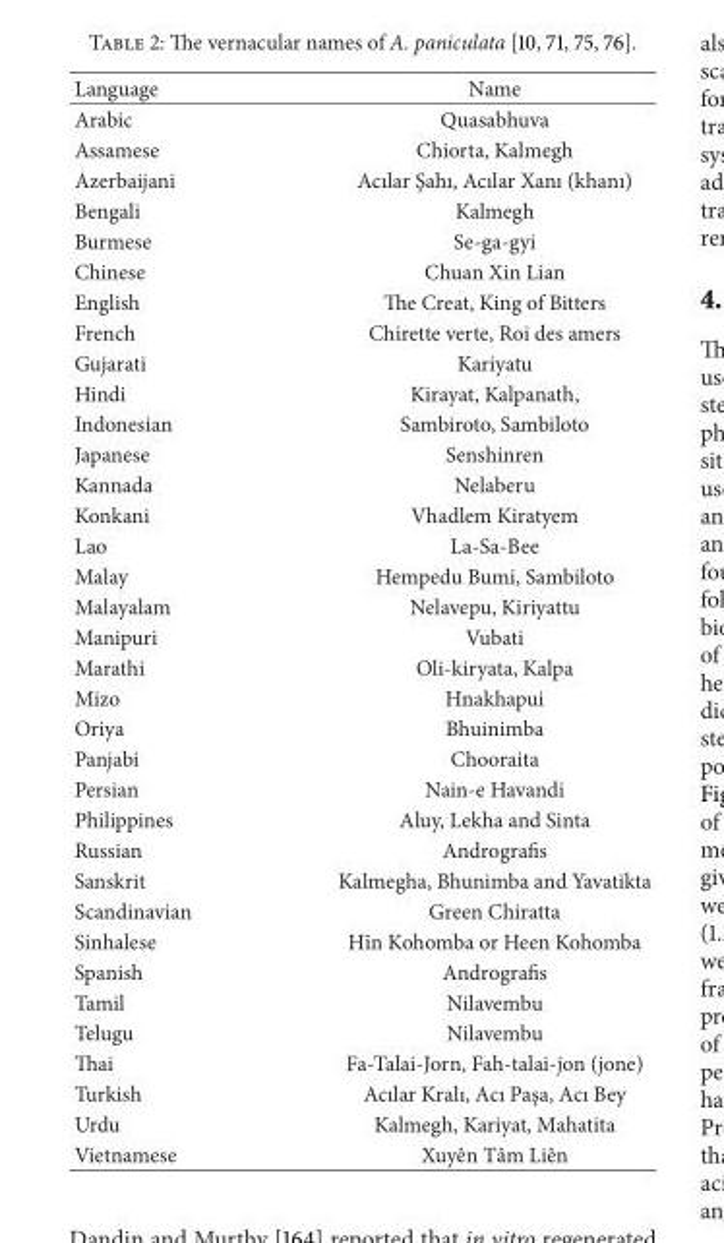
<table><thead><tr><td>Language</td><td>Name</td></tr></thead><tbody><tr><td>Arabic</td><td>Quasabhuva</td></tr><tr><td>Assamese</td><td>Chiorta, Kalmegh</td></tr><tr><td>Azerbaijani</td><td>Acılar S¸ahı, Acılar Xanı (khanı)</td></tr><tr><td>Bengali</td><td>Kalmegh</td></tr><tr><td>Burmese</td><td>Se-ga-gyi</td></tr><tr><td>Chinese</td><td>Chuan Xin Lian</td></tr><tr><td>English</td><td>The Creat, King of Bitters</td></tr><tr><td>French</td><td>Chirette verte, Roi des amers</td></tr><tr><td>Gujarati</td><td>Kariyatu</td></tr><tr><td>Hindi</td><td>Kirayat, Kalpanath,</td></tr><tr><td>Indonesian</td><td>Sambiroto, Sambiloto</td></tr><tr><td>Japanese</td><td>Senshinren</td></tr><tr><td>Kannada</td><td>Nelaberu</td></tr><tr><td>Konkani</td><td>Vhadlem Kiratyem</td></tr><tr><td>Lao</td><td>La-Sa-Bee</td></tr><tr><td>Malay</td><td>Hempedu Bumi, Sambiloto</td></tr><tr><td>Malayalam</td><td>Nelavepu, Kiriyattu</td></tr><tr><td>Manipuri</td><td>Vubati</td></tr><tr><td>Marathi</td><td>Oli-kiryata, Kalpa</td></tr><tr><td>Mizo</td><td>Hnakhapui</td></tr><tr><td>Oriya</td><td>Bhuinimba</td></tr><tr><td>Panjabi</td><td>Chooraita</td></tr><tr><td>Persian</td><td>Nain-e Havandi</td></tr><tr><td>Philippines</td><td>Aluy, Lekha and Sinta</td></tr><tr><td>Russian</td><td>Andrografis</td></tr><tr><td>Sanskrit</td><td>Kalmegha, Bhunimba and Yavatikta</td></tr><tr><td>Scandinavian</td><td>Green Chiratta</td></tr><tr><td>Sinhalese</td><td>H¯ın Kohomba or Heen Kohomba</td></tr><tr><td>Spanish</td><td>Andrografis</td></tr><tr><td>Tamil</td><td>Nilavembu</td></tr><tr><td>Telugu</td><td>Nilavembu</td></tr><tr><td>Thai</td><td>Fa-Talai-Jorn, Fah-talai-jon (jone)</td></tr><tr><td>Turkish</td><td>Acılar Kralı, Acı Pas¸a, Acı Bey</td></tr><tr><td>Urdu</td><td>Kalmegh, Kariyat, Mahatita</td></tr><tr><td>Vietnamese</td><td>Xuyˆen Tˆam Liˆen</td></tr></tbody></table>